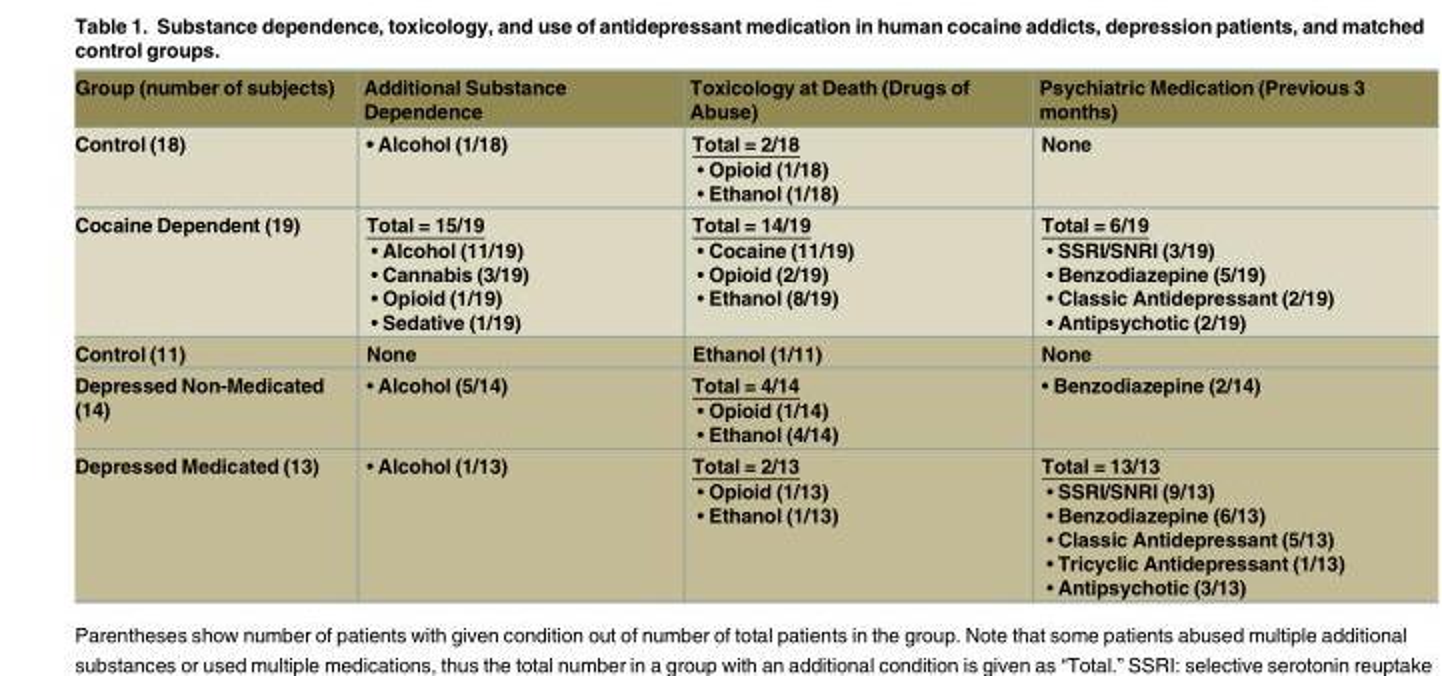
<table><thead><tr><td>Group (number of subjects)</td><td>Additional Substance Dependence</td><td>Toxicology at Death (Drugs of Abuse)</td><td>Psychiatric Medication (Previous 3 months)</td></tr></thead><tbody><tr><td>Control (18)</td><td>• Alcohol (1/18)</td><td>Total = 2/18 • Opioid (1/18) • Ethanol (1/18)</td><td>None</td></tr><tr><td>Cocaine Dependent (19)</td><td>Total = 15/19 • Alcohol (11/19) • Cannabis (3/19) • Opioid (1/19) • Sedative (1/19)</td><td>Total = 14/19 • Cocaine (11/19) • Opioid (2/19) • Ethanol (8/19)</td><td>Total = 6/19 • SSRI/SNRI (3/19) • Benzodiazepine (5/19) • Classic Antidepressant (2/19) • Antipsychotic (2/19)</td></tr><tr><td>Control (11)</td><td>None</td><td>Ethanol (1/11)</td><td>None</td></tr><tr><td>Depressed Non-Medicated (14)</td><td>• Alcohol (5/14)</td><td>Total = 4/14 • Opioid (1/14) • Ethanol (4/14)</td><td>• Benzodiazepine (2/14)</td></tr><tr><td>Depressed Medicated (13)</td><td>• Alcohol (1/13)</td><td>Total = 2/13 • Opioid (1/13) • Ethanol (1/13)</td><td>Total = 13/13 • SSRI/SNRI (9/13) • Benzodiazepine (6/13) • Classic Antidepressant (5/13) • Tricyclic Antidepressant (1/13) • Antipsychotic (3/13)</td></tr></tbody></table>